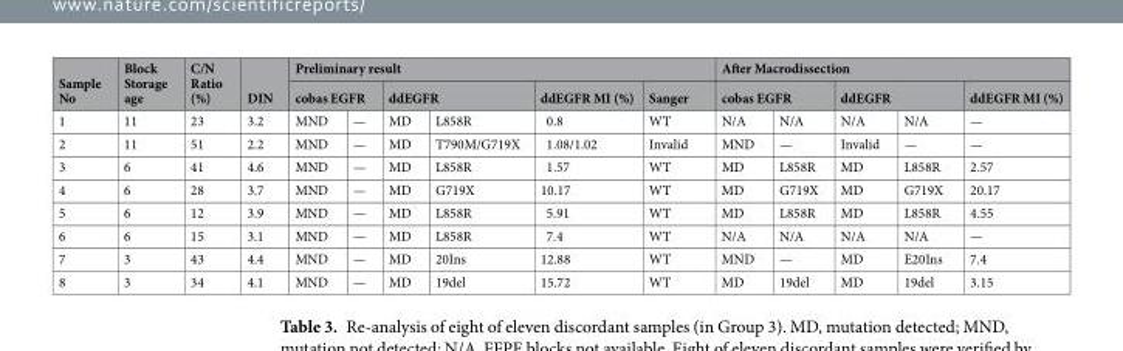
<table><thead><tr><td rowspan="3">Sample No 1</td><td rowspan="3">Block Storage age 11</td><td rowspan="3">C/N Ratio (%) 23</td><td rowspan="3">DIN 3.2</td><td colspan="6">Preliminary result</td><td colspan="5">After Macrodissection</td></tr><tr><td colspan="2">cobas EGFR</td><td colspan="2">ddEGFR</td><td rowspan="2">ddEGFR MI (%) 0.8</td><td rowspan="2">Sanger WT</td><td colspan="2">cobas EGFR</td><td colspan="2">ddEGFR</td><td rowspan="2">ddEGFR MI (%) —</td></tr><tr><td>MND</td><td>—</td><td>MD</td><td>L858R</td><td>N/A</td><td>N/A</td><td>N/A</td><td>N/A</td></tr></thead><tbody><tr><td>2</td><td>11</td><td>51</td><td>2.2</td><td>MND</td><td>—</td><td>MD</td><td>T790M/G719X</td><td>1.08/1.02</td><td>Invalid</td><td>MND</td><td>—</td><td>Invalid</td><td>—</td><td>—</td></tr><tr><td>3</td><td>6</td><td>41</td><td>4.6</td><td>MND</td><td>—</td><td>MD</td><td>L858R</td><td>1.57</td><td>WT</td><td>MD</td><td>L858R</td><td>MD</td><td>L858R</td><td>2.57</td></tr><tr><td>4</td><td>6</td><td>28</td><td>3.7</td><td>MND</td><td>—</td><td>MD</td><td>G719X</td><td>10.17</td><td>WT</td><td>MD</td><td>G719X</td><td>MD</td><td>G719X</td><td>20.17</td></tr><tr><td>5</td><td>6</td><td>12</td><td>3.9</td><td>MND</td><td>—</td><td>MD</td><td>L858R</td><td>5.91</td><td>WT</td><td>MD</td><td>L858R</td><td>MD</td><td>L858R</td><td>4.55</td></tr><tr><td>6</td><td>6</td><td>15</td><td>3.1</td><td>MND</td><td>—</td><td>MD</td><td>L858R</td><td>7.4</td><td>WT</td><td>N/A</td><td>N/A</td><td>N/A</td><td>N/A</td><td>—</td></tr><tr><td>7</td><td>3</td><td>43</td><td>4.4</td><td>MND</td><td>—</td><td>MD</td><td>20Ins</td><td>12.88</td><td>WT</td><td>MND</td><td>—</td><td>MD</td><td>E20Ins</td><td>7.4</td></tr><tr><td>8</td><td>3</td><td>34</td><td>4.1</td><td>MND</td><td>—</td><td>MD</td><td>19del</td><td>15.72</td><td>WT</td><td>MD</td><td>19del</td><td>MD</td><td>19del</td><td>3.15</td></tr></tbody></table>